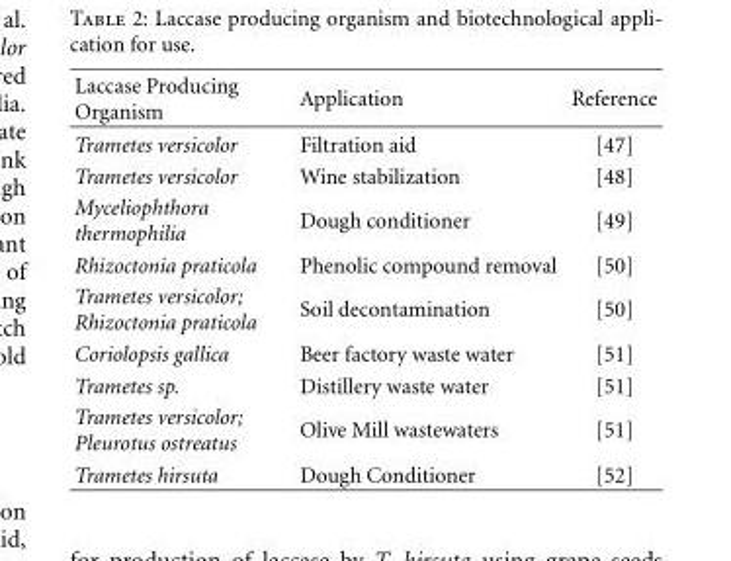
<table><thead><tr><td>Laccase Producing Organism</td><td>Application</td><td>Reference</td></tr></thead><tbody><tr><td>Trametes versicolor</td><td>Filtration aid</td><td>[47]</td></tr><tr><td>Trametes versicolor</td><td>Wine stabilization</td><td>[48]</td></tr><tr><td>Myceliophthora thermophilia</td><td>Dough conditioner</td><td>[49]</td></tr><tr><td>Rhizoctonia praticola</td><td>Phenolic compound removal</td><td>[50]</td></tr><tr><td>Trametes versicolor; Rhizoctonia praticola</td><td>Soil decontamination</td><td>[50]</td></tr><tr><td>Coriolopsis gallica</td><td>Beer factory waste water</td><td>[51]</td></tr><tr><td>Trametes sp.</td><td>Distillery waste water</td><td>[51]</td></tr><tr><td>Trametes versicolor; Pleurotus ostreatus</td><td>Olive Mill wastewaters</td><td>[51]</td></tr><tr><td>Trametes hirsuta</td><td>Dough Conditioner</td><td>[52]</td></tr></tbody></table>